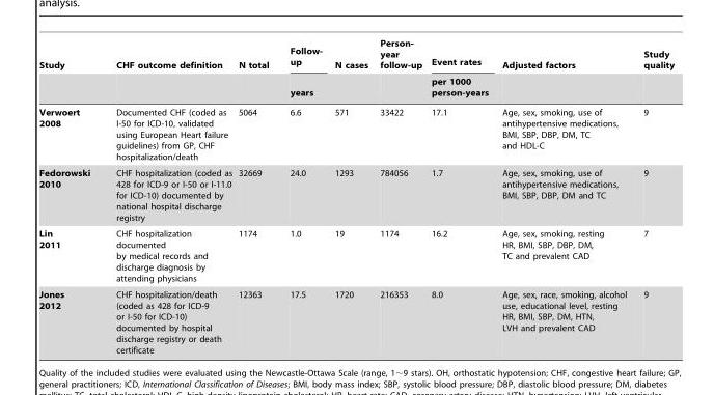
<table><thead><tr><td rowspan="2">Study</td><td rowspan="2">CHF outcome definition</td><td rowspan="2">N total</td><td rowspan="2">Follow- up years</td><td rowspan="2">N cases</td><td rowspan="2">Person- year follow-up</td><td rowspan="2">Event rates per 1000 person-years</td><td rowspan="2">Adjusted factors</td><td rowspan="2">Study quality</td></tr><tr></tr></thead><tbody><tr><td>Verwoert 2008</td><td>Documented CHF (coded as I-50 for ICD-10, validated using European Heart failure guidelines) from GP, CHF hospitalization/death</td><td>5064</td><td>6.6</td><td>571</td><td>33422</td><td>17.1</td><td>Age, sex, smoking, use of antihypertensive medications, BMI, SBP, DBP, DM, TC and HDL-C</td><td>9</td></tr><tr><td>Fedorowski 2010</td><td>CHF hospitalization (coded as 428 for ICD-9 or I-50 or I-11.0 for ICD-10) documented by national hospital discharge registry</td><td>32669</td><td>24.0</td><td>1293</td><td>784056</td><td>1.7</td><td>Age, sex, smoking, use of antihypertensive medications, BMI, SBP, DBP, DM and TC</td><td>9</td></tr><tr><td>Lin 2011</td><td>CHF hospitalization documented by medical records and discharge diagnosis by attending physicians</td><td>1174</td><td>1.0</td><td>19</td><td>1174</td><td>16.2</td><td>Age, sex, smoking, resting HR, BMI, SBP, DBP, DM, TC and prevalent CAD</td><td>7</td></tr><tr><td>Jones 2012</td><td>CHF hospitalization/death (coded as 428 for ICD-9 or I-50 for ICD-10) documented by hospital discharge registry or death certificate</td><td>12363</td><td>17.5</td><td>1720</td><td>216353</td><td>8.0</td><td>Age, sex, race, smoking, alcohol use, educational level, resting HR, BMI, SBP, DM, HTN, LVH and prevalent CAD</td><td>9</td></tr></tbody></table>